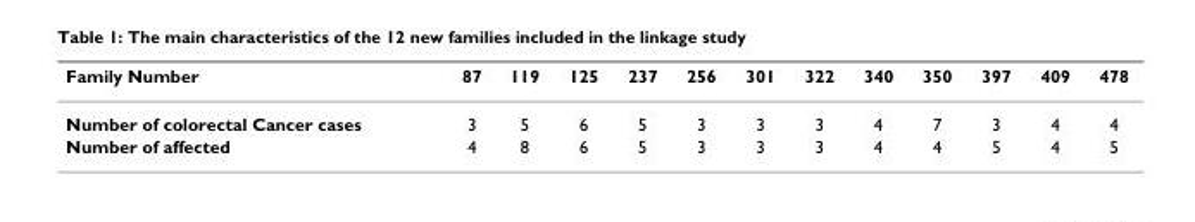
<table><thead><tr><td>Family Number</td><td>87</td><td>119</td><td>125</td><td>237</td><td>256</td><td>301</td><td>322</td><td>340</td><td>350</td><td>397</td><td>409</td><td>478</td></tr></thead><tbody><tr><td>Number of colorectal Cancer cases</td><td>3</td><td>5</td><td>6</td><td>5</td><td>3</td><td>3</td><td>3</td><td>4</td><td>7</td><td>3</td><td>4</td><td>4</td></tr><tr><td>Number of affected</td><td>4</td><td>8</td><td>6</td><td>5</td><td>3</td><td>3</td><td>3</td><td>4</td><td>4</td><td>5</td><td>4</td><td>5</td></tr></tbody></table>